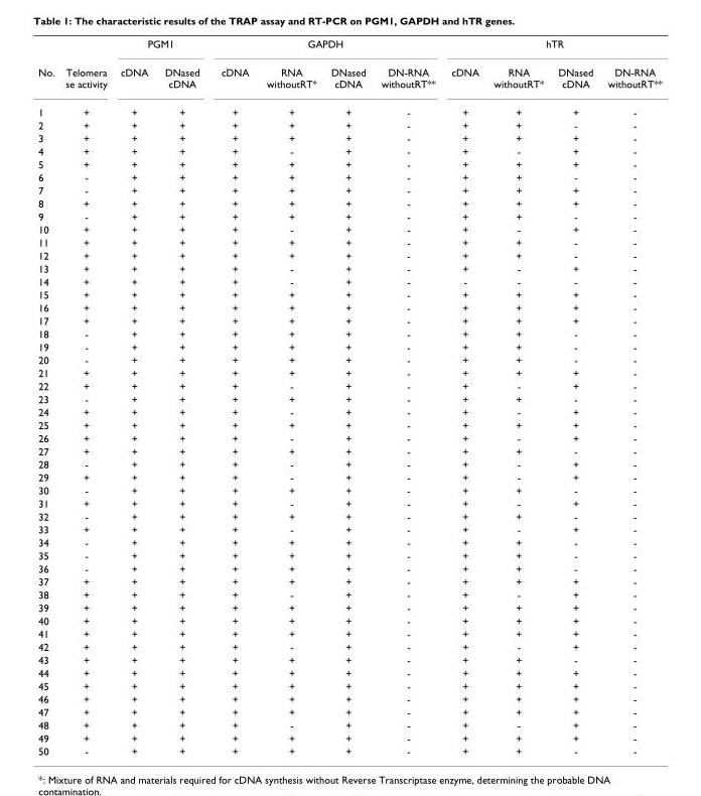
<table><thead><tr><td rowspan="2">No.</td><td rowspan="2">Telomera se activity</td><td colspan="2">PGM1</td><td colspan="4">GAPDH</td><td colspan="4">hTR</td></tr><tr><td>cDNA</td><td>DNased cDNA</td><td>cDNA</td><td>RNA withoutRT*</td><td>DNased cDNA</td><td>DN-RNA withoutRT**</td><td>cDNA</td><td>RNA withoutRT*</td><td>DNased cDNA</td><td>DN-RNA withoutRT**</td></tr></thead><tbody><tr><td>1</td><td>+</td><td>+</td><td>+</td><td>+</td><td>+</td><td>+</td><td>-</td><td>+</td><td>+</td><td>+</td><td>-</td></tr><tr><td>2</td><td>+</td><td>+</td><td>+</td><td>+</td><td>+</td><td>+</td><td>-</td><td>+</td><td>+</td><td>-</td><td>-</td></tr><tr><td>3</td><td>+</td><td>+</td><td>+</td><td>+</td><td>+</td><td>+</td><td>-</td><td>+</td><td>+</td><td>+</td><td>-</td></tr><tr><td>4</td><td>+</td><td>+</td><td>+</td><td>+</td><td>-</td><td>+</td><td>-</td><td>+</td><td>-</td><td>+</td><td>-</td></tr><tr><td>5</td><td>+</td><td>+</td><td>+</td><td>+</td><td>+</td><td>+</td><td>-</td><td>+</td><td>+</td><td>+</td><td>-</td></tr><tr><td>6</td><td>-</td><td>+</td><td>+</td><td>+</td><td>+</td><td>+</td><td>-</td><td>+</td><td>+</td><td>-</td><td>-</td></tr><tr><td>7</td><td>-</td><td>+</td><td>+</td><td>+</td><td>+</td><td>+</td><td>-</td><td>+</td><td>+</td><td>+</td><td>-</td></tr><tr><td>8</td><td>+</td><td>+</td><td>+</td><td>+</td><td>+</td><td>+</td><td>-</td><td>+</td><td>+</td><td>+</td><td>-</td></tr><tr><td>9</td><td>-</td><td>+</td><td>+</td><td>+</td><td>+</td><td>+</td><td>-</td><td>+</td><td>+</td><td>-</td><td>-</td></tr><tr><td>10</td><td>+</td><td>+</td><td>+</td><td>+</td><td>-</td><td>+</td><td>-</td><td>+</td><td>-</td><td>+</td><td>-</td></tr><tr><td>11</td><td>+</td><td>+</td><td>+</td><td>+</td><td>+</td><td>+</td><td>-</td><td>+</td><td>+</td><td>-</td><td>-</td></tr><tr><td>12</td><td>+</td><td>+</td><td>+</td><td>+</td><td>+</td><td>+</td><td>-</td><td>+</td><td>+</td><td>-</td><td>-</td></tr><tr><td>13</td><td>+</td><td>+</td><td>+</td><td>+</td><td>-</td><td>+</td><td>-</td><td>+</td><td>-</td><td>+</td><td>-</td></tr><tr><td>14</td><td>+</td><td>+</td><td>+</td><td>+</td><td>-</td><td>+</td><td>-</td><td>-</td><td>-</td><td>-</td><td>-</td></tr><tr><td>15</td><td>+</td><td>+</td><td>+</td><td>+</td><td>+</td><td>+</td><td>-</td><td>+</td><td>+</td><td>+</td><td>-</td></tr><tr><td>16</td><td>+</td><td>+</td><td>+</td><td>+</td><td>+</td><td>+</td><td>-</td><td>+</td><td>+</td><td>+</td><td>-</td></tr><tr><td>17</td><td>+</td><td>+</td><td>+</td><td>+</td><td>+</td><td>+</td><td>-</td><td>+</td><td>+</td><td>+</td><td>-</td></tr><tr><td>18</td><td>-</td><td>+</td><td>+</td><td>+</td><td>+</td><td>+</td><td>-</td><td>+</td><td>+</td><td>-</td><td>-</td></tr><tr><td>19</td><td>-</td><td>+</td><td>+</td><td>+</td><td>+</td><td>+</td><td>-</td><td>+</td><td>+</td><td>-</td><td>-</td></tr><tr><td>20</td><td>-</td><td>+</td><td>+</td><td>+</td><td>+</td><td>+</td><td>-</td><td>+</td><td>+</td><td>-</td><td>-</td></tr><tr><td>21</td><td>+</td><td>+</td><td>+</td><td>+</td><td>+</td><td>+</td><td>-</td><td>+</td><td>+</td><td>+</td><td>-</td></tr><tr><td>22</td><td>+</td><td>+</td><td>+</td><td>+</td><td>-</td><td>+</td><td>-</td><td>+</td><td>-</td><td>+</td><td>-</td></tr><tr><td>23</td><td>-</td><td>+</td><td>+</td><td>+</td><td>+</td><td>+</td><td>-</td><td>+</td><td>+</td><td>-</td><td>-</td></tr><tr><td>24</td><td>+</td><td>+</td><td>+</td><td>+</td><td>-</td><td>+</td><td>-</td><td>+</td><td>-</td><td>+</td><td>-</td></tr><tr><td>25</td><td>+</td><td>+</td><td>+</td><td>+</td><td>+</td><td>+</td><td>-</td><td>+</td><td>+</td><td>+</td><td>-</td></tr><tr><td>26</td><td>+</td><td>+</td><td>+</td><td>+</td><td>-</td><td>+</td><td>-</td><td>+</td><td>-</td><td>+</td><td>-</td></tr><tr><td>27</td><td>+</td><td>+</td><td>+</td><td>+</td><td>+</td><td>+</td><td>-</td><td>+</td><td>+</td><td>-</td><td>-</td></tr><tr><td>28</td><td>-</td><td>+</td><td>+</td><td>+</td><td>-</td><td>+</td><td>-</td><td>+</td><td>-</td><td>+</td><td>-</td></tr><tr><td>29</td><td>+</td><td>+</td><td>+</td><td>+</td><td>-</td><td>+</td><td>-</td><td>+</td><td>-</td><td>+</td><td>-</td></tr><tr><td>30</td><td>-</td><td>+</td><td>+</td><td>+</td><td>+</td><td>+</td><td>-</td><td>+</td><td>+</td><td>-</td><td>-</td></tr><tr><td>31</td><td>+</td><td>+</td><td>+</td><td>+</td><td>-</td><td>+</td><td>-</td><td>+</td><td>-</td><td>+</td><td>-</td></tr><tr><td>32</td><td>-</td><td>+</td><td>+</td><td>+</td><td>+</td><td>+</td><td>-</td><td>+</td><td>+</td><td>-</td><td>-</td></tr><tr><td>33</td><td>+</td><td>+</td><td>+</td><td>+</td><td>-</td><td>+</td><td>-</td><td>+</td><td>-</td><td>+</td><td>-</td></tr><tr><td>34</td><td>-</td><td>+</td><td>+</td><td>+</td><td>+</td><td>+</td><td>-</td><td>+</td><td>+</td><td>-</td><td>-</td></tr><tr><td>35</td><td>-</td><td>+</td><td>+</td><td>+</td><td>+</td><td>+</td><td>-</td><td>+</td><td>+</td><td>-</td><td>-</td></tr><tr><td>36</td><td>-</td><td>+</td><td>+</td><td>+</td><td>+</td><td>+</td><td>-</td><td>+</td><td>+</td><td>-</td><td>-</td></tr><tr><td>37</td><td>+</td><td>+</td><td>+</td><td>+</td><td>+</td><td>+</td><td>-</td><td>+</td><td>+</td><td>+</td><td>-</td></tr><tr><td>38</td><td>+</td><td>+</td><td>+</td><td>+</td><td>-</td><td>+</td><td>-</td><td>+</td><td>-</td><td>+</td><td>-</td></tr><tr><td>39</td><td>+</td><td>+</td><td>+</td><td>+</td><td>+</td><td>+</td><td>-</td><td>+</td><td>+</td><td>+</td><td>-</td></tr><tr><td>40</td><td>+</td><td>+</td><td>+</td><td>+</td><td>+</td><td>+</td><td>-</td><td>+</td><td>+</td><td>+</td><td>-</td></tr><tr><td>41</td><td>+</td><td>+</td><td>+</td><td>+</td><td>+</td><td>+</td><td>-</td><td>+</td><td>+</td><td>+</td><td>-</td></tr><tr><td>42</td><td>+</td><td>+</td><td>+</td><td>+</td><td>-</td><td>+</td><td>-</td><td>+</td><td>-</td><td>+</td><td>-</td></tr><tr><td>43</td><td>+</td><td>+</td><td>+</td><td>+</td><td>+</td><td>+</td><td>-</td><td>+</td><td>+</td><td>-</td><td>-</td></tr><tr><td>44</td><td>+</td><td>+</td><td>+</td><td>+</td><td>+</td><td>+</td><td>-</td><td>+</td><td>+</td><td>+</td><td>-</td></tr><tr><td>45</td><td>+</td><td>+</td><td>+</td><td>+</td><td>+</td><td>+</td><td>-</td><td>+</td><td>+</td><td>+</td><td>-</td></tr><tr><td>46</td><td>+</td><td>+</td><td>+</td><td>+</td><td>+</td><td>+</td><td>-</td><td>+</td><td>+</td><td>+</td><td>-</td></tr><tr><td>47</td><td>+</td><td>+</td><td>+</td><td>+</td><td>+</td><td>+</td><td>-</td><td>+</td><td>+</td><td>+</td><td>-</td></tr><tr><td>48</td><td>+</td><td>+</td><td>+</td><td>+</td><td>-</td><td>+</td><td>-</td><td>+</td><td>-</td><td>+</td><td>-</td></tr><tr><td>49</td><td>+</td><td>+</td><td>+</td><td>+</td><td>+</td><td>+</td><td>-</td><td>+</td><td>+</td><td>+</td><td>-</td></tr><tr><td>50</td><td>-</td><td>+</td><td>+</td><td>+</td><td>+</td><td>+</td><td>-</td><td>+</td><td>+</td><td>-</td><td>-</td></tr></tbody></table>